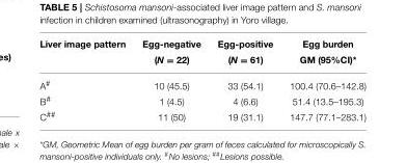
<table><thead><tr><td rowspan="2">Liver image pattern</td><td rowspan="2">Egg-negative (N = 22)</td><td rowspan="2">Egg-positive (N = 61)</td><td rowspan="2">Egg burden GM (95%CI)*</td></tr><tr></tr></thead><tbody><tr><td>A<sup>#</sup></td><td>10 (45.5)</td><td>33 (54.1)</td><td>100.4 (70.6–142.8)</td></tr><tr><td>B<sup>#</sup></td><td>1 (4.5)</td><td>4 (6.6)</td><td>51.4 (13.5–195.3)</td></tr><tr><td>C<sup>##</sup></td><td>11 (50)</td><td>19 (31.1)</td><td>147.7 (77.1–283.1)</td></tr></tbody></table>